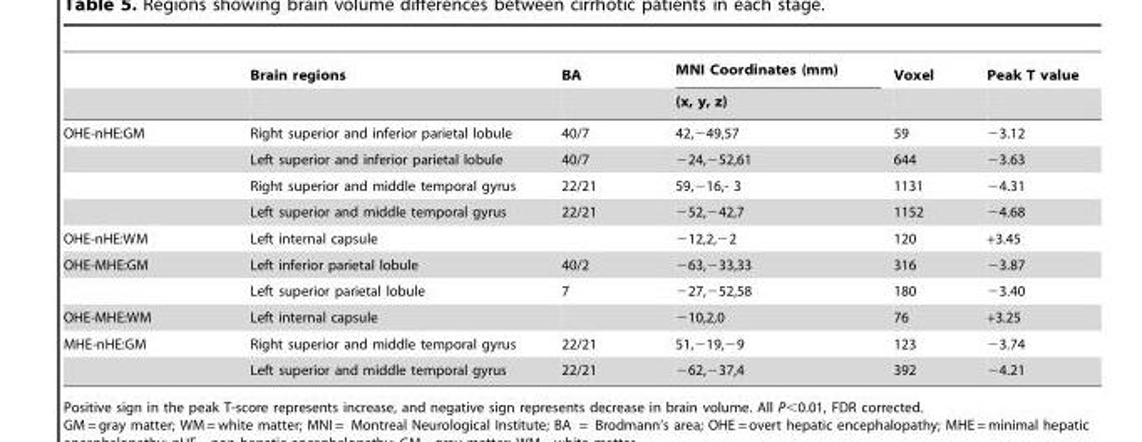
<table><thead><tr><td rowspan="2"></td><td rowspan="2">Brain regions</td><td rowspan="2">BA</td><td rowspan="2">MNI Coordinates (mm) (x, y, z)</td><td rowspan="2">Voxel</td><td rowspan="2">Peak T value</td></tr><tr></tr></thead><tbody><tr><td rowspan="4">OHE-nHE:GM</td><td>Right superior and inferior parietal lobule</td><td>40/7</td><td>42,−49,57</td><td>59</td><td>−3.12</td></tr><tr><td>Left superior and inferior parietal lobule</td><td>40/7</td><td>−24,−52,61</td><td>644</td><td>−3.63</td></tr><tr><td>Right superior and middle temporal gyrus</td><td>22/21</td><td>59,−16,- 3</td><td>1131</td><td>−4.31</td></tr><tr><td>Left superior and middle temporal gyrus</td><td>22/21</td><td>−52,−42,7</td><td>1152</td><td>−4.68</td></tr><tr><td>OHE-nHE:WM</td><td>Left internal capsule</td><td></td><td>−12,2,−2</td><td>120</td><td>+3.45</td></tr><tr><td rowspan="2">OHE-MHE:GM</td><td>Left inferior parietal lobule</td><td>40/2</td><td>−63,−33,33</td><td>316</td><td>−3.87</td></tr><tr><td>Left superior parietal lobule</td><td>7</td><td>−27,−52,58</td><td>180</td><td>−3.40</td></tr><tr><td>OHE-MHE:WM</td><td>Left internal capsule</td><td></td><td>−10,2,0</td><td>76</td><td>+3.25</td></tr><tr><td rowspan="2">MHE-nHE:GM</td><td>Right superior and middle temporal gyrus</td><td>22/21</td><td>51,−19,−9</td><td>123</td><td>−3.74</td></tr><tr><td>Left superior and middle temporal gyrus</td><td>22/21</td><td>−62,−37,4</td><td>392</td><td>−4.21</td></tr></tbody></table>